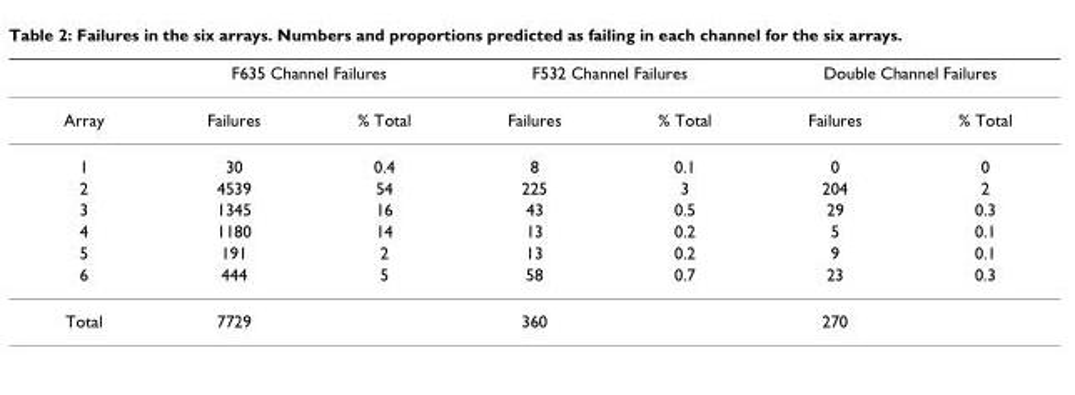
<table><thead><tr><td rowspan="2">Array</td><td colspan="2">F635 Channel Failures</td><td colspan="2">F532 Channel Failures</td><td colspan="2">Double Channel Failures</td></tr><tr><td>Failures</td><td>% Total</td><td>Failures</td><td>% Total</td><td>Failures</td><td>% Total</td></tr></thead><tbody><tr><td>1</td><td>30</td><td>0.4</td><td>8</td><td>0.1</td><td>0</td><td>0</td></tr><tr><td>2</td><td>4539</td><td>54</td><td>225</td><td>3</td><td>204</td><td>2</td></tr><tr><td>3</td><td>1345</td><td>16</td><td>43</td><td>0.5</td><td>29</td><td>0.3</td></tr><tr><td>4</td><td>1180</td><td>14</td><td>13</td><td>0.2</td><td>5</td><td>0.1</td></tr><tr><td>5</td><td>191</td><td>2</td><td>13</td><td>0.2</td><td>9</td><td>0.1</td></tr><tr><td>6</td><td>444</td><td>5</td><td>58</td><td>0.7</td><td>23</td><td>0.3</td></tr><tr><td>Total</td><td>7729</td><td></td><td>360</td><td></td><td>270</td><td></td></tr></tbody></table>